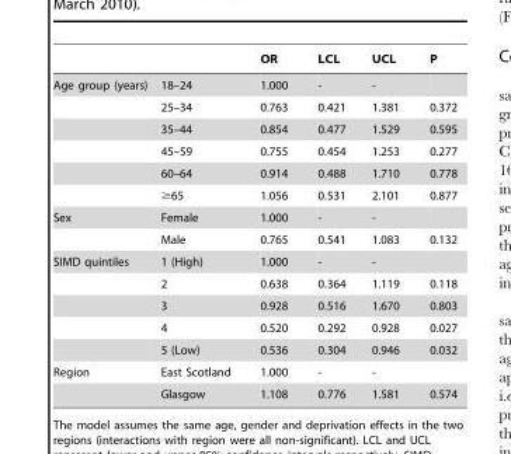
<table><thead><tr><td></td><td></td><td>OR</td><td>LCL</td><td>UCL</td><td>P</td></tr></thead><tbody><tr><td rowspan="6">Age group (years)</td><td>18–24</td><td>1.000</td><td>-</td><td>-</td><td></td></tr><tr><td>25–34</td><td>0.763</td><td>0.421</td><td>1.381</td><td>0.372</td></tr><tr><td>35–44</td><td>0.854</td><td>0.477</td><td>1.529</td><td>0.595</td></tr><tr><td>45–59</td><td>0.755</td><td>0.454</td><td>1.253</td><td>0.277</td></tr><tr><td>60–64</td><td>0.914</td><td>0.488</td><td>1.710</td><td>0.778</td></tr><tr><td>≥65</td><td>1.056</td><td>0.531</td><td>2.101</td><td>0.877</td></tr><tr><td rowspan="2">Sex</td><td>Female</td><td>1.000</td><td>-</td><td>-</td><td></td></tr><tr><td>Male</td><td>0.765</td><td>0.541</td><td>1.083</td><td>0.132</td></tr><tr><td rowspan="5">SIMD quintiles</td><td>1 (High)</td><td>1.000</td><td>-</td><td>-</td><td></td></tr><tr><td>2</td><td>0.638</td><td>0.364</td><td>1.119</td><td>0.118</td></tr><tr><td>3</td><td>0.928</td><td>0.516</td><td>1.670</td><td>0.803</td></tr><tr><td>4</td><td>0.520</td><td>0.292</td><td>0.928</td><td>0.027</td></tr><tr><td>5 (Low)</td><td>0.536</td><td>0.304</td><td>0.946</td><td>0.032</td></tr><tr><td rowspan="2">Region</td><td>East Scotland</td><td>1.000</td><td>-</td><td>-</td><td></td></tr><tr><td>Glasgow</td><td>1.108</td><td>0.776</td><td>1.581</td><td>0.574</td></tr></tbody></table>